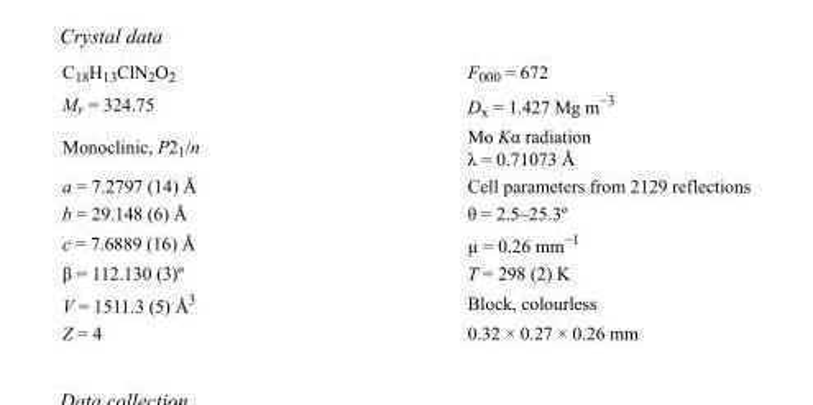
<table><tbody><tr><td>C<sub>18</sub>H<sub>13</sub>ClN<sub>2</sub>O<sub>2</sub></td><td>F000 = 672</td></tr><tr><td>M<sub>r</sub> = 324.75</td><td>D<sub>x</sub> = 1.427 Mg m<sup>−3</sup></td></tr><tr><td>Monoclinic, P2<sub>1</sub>/n</td><td>Mo Kα radiation λ = 0.71073 Å</td></tr><tr><td>a = 7.2797 (14) Å</td><td>Cell parameters from 2129 reflections</td></tr><tr><td>b = 29.148 (6) Å</td><td>θ = 2.5–25.3º</td></tr><tr><td>c = 7.6889 (16) Å</td><td>µ = 0.26 mm<sup>−1</sup></td></tr><tr><td>β = 112.130 (3)º</td><td>T = 298 (2) K</td></tr><tr><td>V = 1511.3 (5) Å<sup>3</sup></td><td>Block, colourless</td></tr><tr><td>Z = 4</td><td>0.32 × 0.27 × 0.26 mm</td></tr></tbody></table>